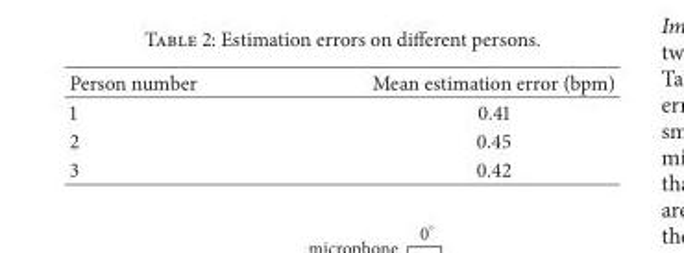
<table><thead><tr><td>Person number</td><td>Mean estimation error (bpm)</td></tr></thead><tbody><tr><td>1</td><td>0.41</td></tr><tr><td>2</td><td>0.45</td></tr><tr><td>3</td><td>0.42</td></tr></tbody></table>